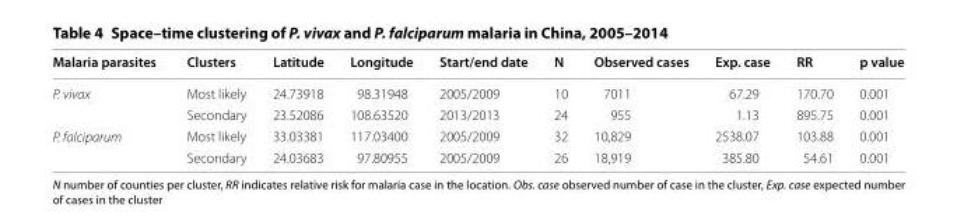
<table><thead><tr><td>Malaria parasites</td><td>Clusters</td><td>Latitude</td><td>Longitude</td><td>Start/end date</td><td>N</td><td>Observed cases</td><td>Exp. case</td><td>RR</td><td>p value</td></tr></thead><tbody><tr><td rowspan="2">P. vivax</td><td>Most likely</td><td>24.73918</td><td>98.31948</td><td>2005/2009</td><td>10</td><td>7011</td><td>67.29</td><td>170.70</td><td>0.001</td></tr><tr><td>Secondary</td><td>23.52086</td><td>108.63520</td><td>2013/2013</td><td>24</td><td>955</td><td>1.13</td><td>895.75</td><td>0.001</td></tr><tr><td rowspan="2">P. falciparum</td><td>Most likely</td><td>33.03381</td><td>117.03400</td><td>2005/2009</td><td>32</td><td>10,829</td><td>2538.07</td><td>103.88</td><td>0.001</td></tr><tr><td>Secondary</td><td>24.03683</td><td>97.80955</td><td>2005/2009</td><td>26</td><td>18,919</td><td>385.80</td><td>54.61</td><td>0.001</td></tr></tbody></table>